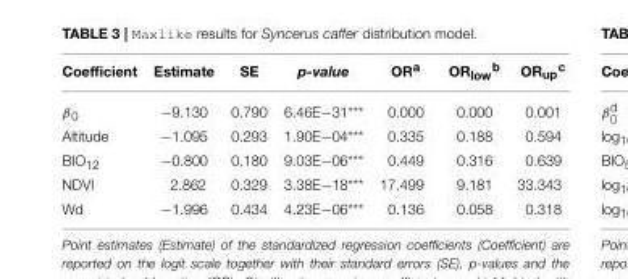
<table><thead><tr><td>Coefficient</td><td>Estimate</td><td>SE</td><td>p-value</td><td>OR<sup>a</sup></td><td>OR<sub>low</sub><sup>b</sup></td><td>OR<sub>up</sub><sup>c</sup></td></tr></thead><tbody><tr><td>β<sub>0</sub></td><td>−9.130</td><td>0.790</td><td>6.46E−31***</td><td>0.000</td><td>0.000</td><td>0.001</td></tr><tr><td>Altitude</td><td>−1.095</td><td>0.293</td><td>1.90E−04***</td><td>0.335</td><td>0.188</td><td>0.594</td></tr><tr><td>BIO<sub>12</sub></td><td>−0.800</td><td>0.180</td><td>9.03E−06***</td><td>0.449</td><td>0.316</td><td>0.639</td></tr><tr><td>NDVI</td><td>2.862</td><td>0.329</td><td>3.38E−18***</td><td>17.499</td><td>9.181</td><td>33.343</td></tr><tr><td>Wd</td><td>−1.996</td><td>0.434</td><td>4.23E−06***</td><td>0.136</td><td>0.058</td><td>0.318</td></tr></tbody></table>